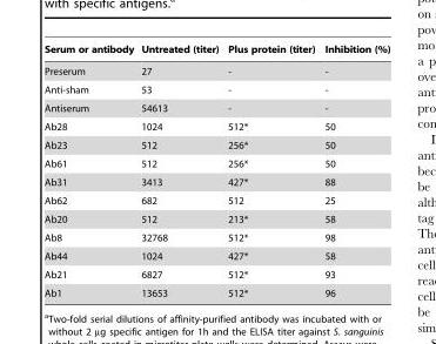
<table><thead><tr><td>Serum or antibody</td><td>Untreated (titer)</td><td>Plus protein (titer)</td><td>Inhibition (%)</td></tr></thead><tbody><tr><td>Preserum</td><td>27</td><td>-</td><td>-</td></tr><tr><td>Anti-sham</td><td>53</td><td>-</td><td>-</td></tr><tr><td>Antiserum</td><td>54613</td><td>-</td><td>-</td></tr><tr><td>Ab28</td><td>1024</td><td>512*</td><td>50</td></tr><tr><td>Ab23</td><td>512</td><td>256*</td><td>50</td></tr><tr><td>Ab61</td><td>512</td><td>256*</td><td>50</td></tr><tr><td>Ab31</td><td>3413</td><td>427*</td><td>88</td></tr><tr><td>Ab62</td><td>682</td><td>512</td><td>25</td></tr><tr><td>Ab20</td><td>512</td><td>213*</td><td>58</td></tr><tr><td>Ab8</td><td>32768</td><td>512*</td><td>98</td></tr><tr><td>Ab44</td><td>1024</td><td>427*</td><td>58</td></tr><tr><td>Ab21</td><td>6827</td><td>512*</td><td>93</td></tr><tr><td>Ab1</td><td>13653</td><td>512*</td><td>96</td></tr></tbody></table>